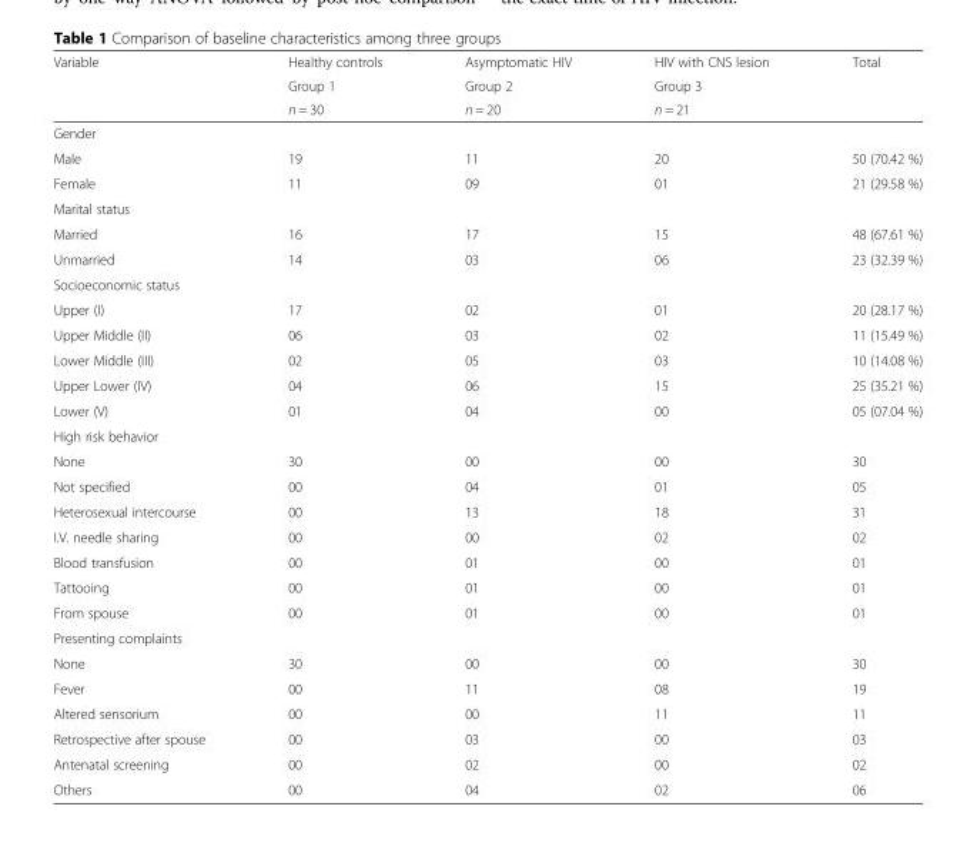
<table><thead><tr><td rowspan="3">Variable</td><td rowspan="3">Healthy controls Group 1 n = 30</td><td rowspan="3">Asymptomatic HIV Group 2 n = 20</td><td rowspan="3">HIV with CNS lesion Group 3 n = 21</td><td rowspan="3">Total</td></tr><tr></tr><tr></tr></thead><tbody><tr><td colspan="5">Gender</td></tr><tr><td>Male</td><td>19</td><td>11</td><td>20</td><td>50 (70.42 %)</td></tr><tr><td>Female</td><td>11</td><td>09</td><td>01</td><td>21 (29.58 %)</td></tr><tr><td colspan="5">Marital status</td></tr><tr><td>Married</td><td>16</td><td>17</td><td>15</td><td>48 (67.61 %)</td></tr><tr><td>Unmarried</td><td>14</td><td>03</td><td>06</td><td>23 (32.39 %)</td></tr><tr><td colspan="5">Socioeconomic status</td></tr><tr><td>Upper (I)</td><td>17</td><td>02</td><td>01</td><td>20 (28.17 %)</td></tr><tr><td>Upper Middle (II)</td><td>06</td><td>03</td><td>02</td><td>11 (15.49 %)</td></tr><tr><td>Lower Middle (III)</td><td>02</td><td>05</td><td>03</td><td>10 (14.08 %)</td></tr><tr><td>Upper Lower (IV)</td><td>04</td><td>06</td><td>15</td><td>25 (35.21 %)</td></tr><tr><td>Lower (V)</td><td>01</td><td>04</td><td>00</td><td>05 (07.04 %)</td></tr><tr><td colspan="5">High risk behavior</td></tr><tr><td>None</td><td>30</td><td>00</td><td>00</td><td>30</td></tr><tr><td>Not specified</td><td>00</td><td>04</td><td>01</td><td>05</td></tr><tr><td>Heterosexual intercourse</td><td>00</td><td>13</td><td>18</td><td>31</td></tr><tr><td>I.V. needle sharing</td><td>00</td><td>00</td><td>02</td><td>02</td></tr><tr><td>Blood transfusion</td><td>00</td><td>01</td><td>00</td><td>01</td></tr><tr><td>Tattooing</td><td>00</td><td>01</td><td>00</td><td>01</td></tr><tr><td>From spouse</td><td>00</td><td>01</td><td>00</td><td>01</td></tr><tr><td colspan="5">Presenting complaints</td></tr><tr><td>None</td><td>30</td><td>00</td><td>00</td><td>30</td></tr><tr><td>Fever</td><td>00</td><td>11</td><td>08</td><td>19</td></tr><tr><td>Altered sensorium</td><td>00</td><td>00</td><td>11</td><td>11</td></tr><tr><td>Retrospective after spouse</td><td>00</td><td>03</td><td>00</td><td>03</td></tr><tr><td>Antenatal screening</td><td>00</td><td>02</td><td>00</td><td>02</td></tr><tr><td>Others</td><td>00</td><td>04</td><td>02</td><td>06</td></tr></tbody></table>